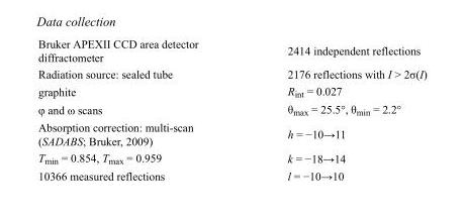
<table><tbody><tr><td>Bruker APEXII CCD area detector diffractometer</td><td>2414 independent reflections</td></tr><tr><td>Radiation source: sealed tube</td><td>2176 reflections with I &gt; 2σ(I)</td></tr><tr><td>graphite</td><td>R<sub>int</sub> = 0.027</td></tr><tr><td>φ and ω scans</td><td>θ<sub>max</sub> = 25.5°, θ<sub>min</sub> = 2.2°</td></tr><tr><td>Absorption correction: multi-scan (SADABS; Bruker, 2009)</td><td>h = −10→11</td></tr><tr><td>T<sub>min</sub> = 0.854, T<sub>max</sub> = 0.959</td><td>k = −18→14</td></tr><tr><td>10366 measured reflections</td><td>l = −10→10</td></tr></tbody></table>